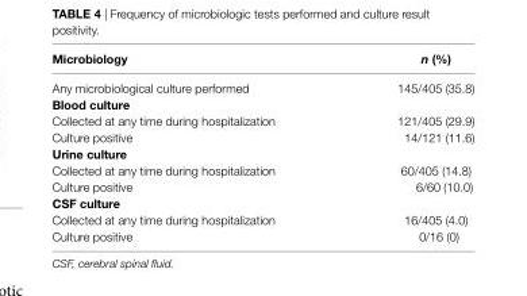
<table><thead><tr><td>Microbiology</td><td>n (%)</td></tr></thead><tbody><tr><td>Any microbiological culture performed</td><td>145/405 (35.8)</td></tr><tr><td colspan="2">Blood culture</td></tr><tr><td>Collected at any time during hospitalization</td><td>121/405 (29.9)</td></tr><tr><td>Culture positive</td><td>14/121 (11.6)</td></tr><tr><td colspan="2">Urine culture</td></tr><tr><td>Collected at any time during hospitalization</td><td>60/405 (14.8)</td></tr><tr><td>Culture positive</td><td>6/60 (10.0)</td></tr><tr><td colspan="2">csF culture</td></tr><tr><td>Collected at any time during hospitalization</td><td>16/405 (4.0)</td></tr><tr><td>Culture positive</td><td>0/16 (0)</td></tr></tbody></table>